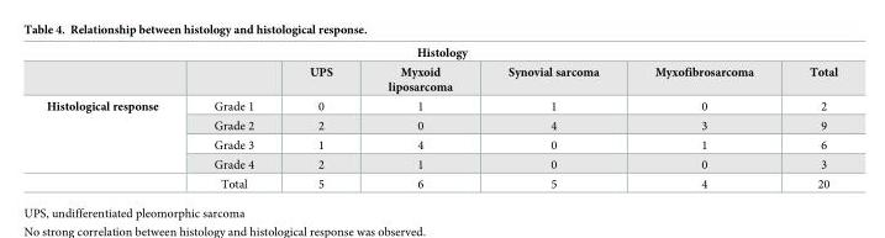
<table><thead><tr><td colspan="7">Histology</td></tr><tr><td></td><td></td><td>UPS</td><td>Myxoid liposarcoma</td><td>Synovial sarcoma</td><td>Myxofibrosarcoma</td><td>Total</td></tr></thead><tbody><tr><td rowspan="5">Histological response</td><td>Grade 1</td><td>0</td><td>1</td><td>1</td><td>0</td><td>2</td></tr><tr><td>Grade 2</td><td>2</td><td>0</td><td>4</td><td>3</td><td>9</td></tr><tr><td>Grade 3</td><td>1</td><td>4</td><td>0</td><td>1</td><td>6</td></tr><tr><td>Grade 4</td><td>2</td><td>1</td><td>0</td><td>0</td><td>3</td></tr><tr><td>Total</td><td>5</td><td>6</td><td>5</td><td>4</td><td>20</td></tr></tbody></table>